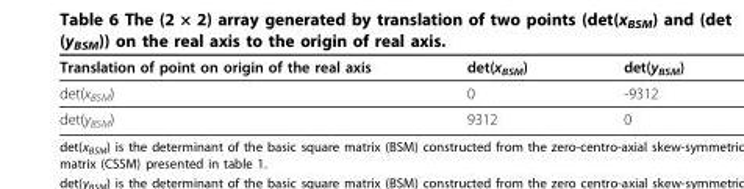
<table><thead><tr><td>Translation of point on origin of the real axis</td><td>det(x<sub>BSM</sub>)</td><td>det(y<sub>BSM</sub>)</td></tr></thead><tbody><tr><td>det(x<sub>BSM</sub>)</td><td>0</td><td>-9312</td></tr><tr><td>det(y<sub>BSM</sub>)</td><td>9312</td><td>0</td></tr></tbody></table>